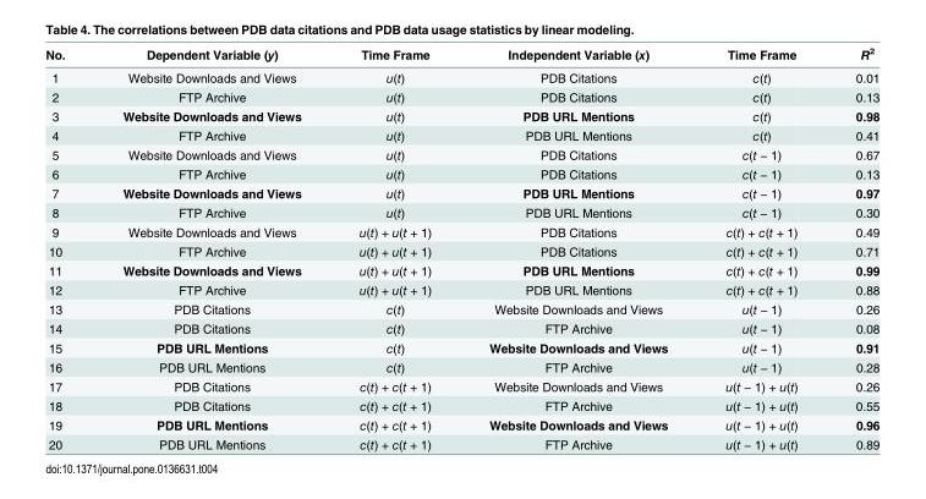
<table><thead><tr><td>No.</td><td>Dependent Variable (y)</td><td>Time Frame</td><td>Independent Variable (x)</td><td>Time Frame</td><td>R<sup>2</sup></td></tr></thead><tbody><tr><td>1</td><td>Website Downloads and Views</td><td>u(t)</td><td>PDB Citations</td><td>c(t)</td><td>0.01</td></tr><tr><td>2</td><td>FTP Archive</td><td>u(t)</td><td>PDB Citations</td><td>c(t)</td><td>0.13</td></tr><tr><td>3</td><td>Website Downloads and Views</td><td>u(t)</td><td>PDB URL Mentions</td><td>c(t)</td><td>0.98</td></tr><tr><td>4</td><td>FTP Archive</td><td>u(t)</td><td>PDB URL Mentions</td><td>c(t)</td><td>0.41</td></tr><tr><td>5</td><td>Website Downloads and Views</td><td>u(t)</td><td>PDB Citations</td><td>c(t − 1)</td><td>0.67</td></tr><tr><td>6</td><td>FTP Archive</td><td>u(t)</td><td>PDB Citations</td><td>c(t − 1)</td><td>0.13</td></tr><tr><td>7</td><td>Website Downloads and Views</td><td>u(t)</td><td>PDB URL Mentions</td><td>c(t − 1)</td><td>0.97</td></tr><tr><td>8</td><td>FTP Archive</td><td>u(t)</td><td>PDB URL Mentions</td><td>c(t − 1)</td><td>0.30</td></tr><tr><td>9</td><td>Website Downloads and Views</td><td>u(t) + u(t + 1)</td><td>PDB Citations</td><td>c(t) + c(t + 1)</td><td>0.49</td></tr><tr><td>10</td><td>FTP Archive</td><td>u(t) + u(t + 1)</td><td>PDB Citations</td><td>c(t) + c(t + 1)</td><td>0.71</td></tr><tr><td>11</td><td>Website Downloads and Views</td><td>u(t) + u(t + 1)</td><td>PDB URL Mentions</td><td>c(t) + c(t + 1)</td><td>0.99</td></tr><tr><td>12</td><td>FTP Archive</td><td>u(t) + u(t + 1)</td><td>PDB URL Mentions</td><td>c(t) + c(t + 1)</td><td>0.88</td></tr><tr><td>13</td><td>PDB Citations</td><td>c(t)</td><td>Website Downloads and Views</td><td>u(t − 1)</td><td>0.26</td></tr><tr><td>14</td><td>PDB Citations</td><td>c(t)</td><td>FTP Archive</td><td>u(t − 1)</td><td>0.08</td></tr><tr><td>15</td><td>PDB URL Mentions</td><td>c(t)</td><td>Website Downloads and Views</td><td>u(t − 1)</td><td>0.91</td></tr><tr><td>16</td><td>PDB URL Mentions</td><td>c(t)</td><td>FTP Archive</td><td>u(t − 1)</td><td>0.28</td></tr><tr><td>17</td><td>PDB Citations</td><td>c(t) + c(t + 1)</td><td>Website Downloads and Views</td><td>u(t − 1) + u(t)</td><td>0.26</td></tr><tr><td>18</td><td>PDB Citations</td><td>c(t) + c(t + 1)</td><td>FTP Archive</td><td>u(t − 1) + u(t)</td><td>0.55</td></tr><tr><td>19</td><td>PDB URL Mentions</td><td>c(t) + c(t + 1)</td><td>Website Downloads and Views</td><td>u(t − 1) + u(t)</td><td>0.96</td></tr><tr><td>20</td><td>PDB URL Mentions</td><td>c(t) + c(t + 1)</td><td>FTP Archive</td><td>u(t − 1) + u(t)</td><td>0.89</td></tr></tbody></table>